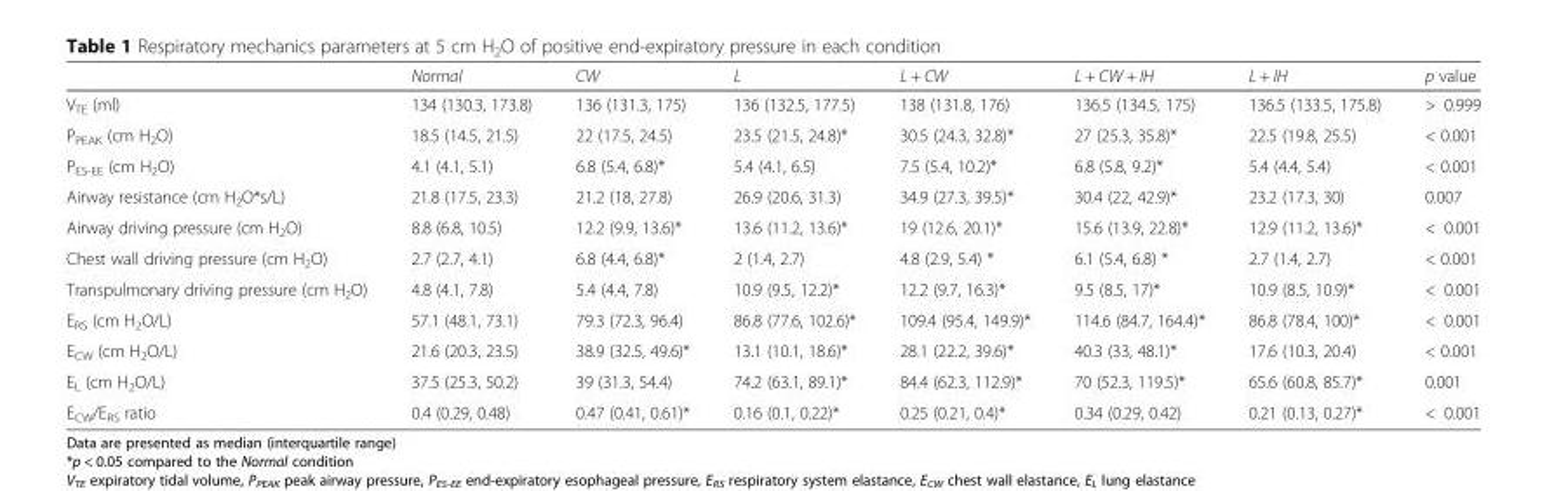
<table><thead><tr><td></td><td>Normal</td><td>CW</td><td>L</td><td>L + CW</td><td>L + CW + IH</td><td>L + IH</td><td>p value</td></tr></thead><tbody><tr><td>V<sub>TE</sub> (ml)</td><td>134 (130.3, 173.8)</td><td>136 (131.3, 175)</td><td>136 (132.5, 177.5)</td><td>138 (131.8, 176)</td><td>136.5 (134.5, 175)</td><td>136.5 (133.5, 175.8)</td><td>&gt; 0.999</td></tr><tr><td>P<sub>PEAK</sub> (cm H<sub>2</sub>O)</td><td>18.5 (14.5, 21.5)</td><td>22 (17.5, 24.5)</td><td>23.5 (21.5, 24.8)*</td><td>30.5 (24.3, 32.8)*</td><td>27 (25.3, 35.8)*</td><td>22.5 (19.8, 25.5)</td><td>&lt; 0.001</td></tr><tr><td>P<sub>ES-EE</sub> (cm H<sub>2</sub>O)</td><td>4.1 (4.1, 5.1)</td><td>6.8 (5.4, 6.8)*</td><td>5.4 (4.1, 6.5)</td><td>7.5 (5.4, 10.2)*</td><td>6.8 (5.8, 9.2)*</td><td>5.4 (4.4, 5.4)</td><td>&lt; 0.001</td></tr><tr><td>Airway resistance (cm H<sub>2</sub>O*s/L)</td><td>21.8 (17.5, 23.3)</td><td>21.2 (18, 27.8)</td><td>26.9 (20.6, 31.3)</td><td>34.9 (27.3, 39.5)*</td><td>30.4 (22, 42.9)*</td><td>23.2 (17.3, 30)</td><td>0.007</td></tr><tr><td>Airway driving pressure (cm H<sub>2</sub>O)</td><td>8.8 (6.8, 10.5)</td><td>12.2 (9.9, 13.6)*</td><td>13.6 (11.2, 13.6)*</td><td>19 (12.6, 20.1)*</td><td>15.6 (13.9, 22.8)*</td><td>12.9 (11.2, 13.6)*</td><td>&lt; 0.001</td></tr><tr><td>Chest wall driving pressure (cm H<sub>2</sub>O)</td><td>2.7 (2.7, 4.1)</td><td>6.8 (4.4, 6.8)*</td><td>2 (1.4, 2.7)</td><td>4.8 (2.9, 5.4) *</td><td>6.1 (5.4, 6.8) *</td><td>2.7 (1.4, 2.7)</td><td>&lt; 0.001</td></tr><tr><td>Transpulmonary driving pressure (cm H<sub>2</sub>O)</td><td>4.8 (4.1, 7.8)</td><td>5.4 (4.4, 7.8)</td><td>10.9 (9.5, 12.2)*</td><td>12.2 (9.7, 16.3)*</td><td>9.5 (8.5, 17)*</td><td>10.9 (8.5, 10.9)*</td><td>&lt; 0.001</td></tr><tr><td>E<sub>RS</sub> (cm H<sub>2</sub>O/L)</td><td>57.1 (48.1, 73.1)</td><td>79.3 (72.3, 96.4)</td><td>86.8 (77.6, 102.6)*</td><td>109.4 (95.4, 149.9)*</td><td>114.6 (84.7, 164.4)*</td><td>86.8 (78.4, 100)*</td><td>&lt; 0.001</td></tr><tr><td>E<sub>CW</sub> (cm H<sub>2</sub>O/L)</td><td>21.6 (20.3, 23.5)</td><td>38.9 (32.5, 49.6)*</td><td>13.1 (10.1, 18.6)*</td><td>28.1 (22.2, 39.6)*</td><td>40.3 (33, 48.1)*</td><td>17.6 (10.3, 20.4)</td><td>&lt; 0.001</td></tr><tr><td>E<sub>L</sub> (cm H<sub>2</sub>O/L)</td><td>37.5 (25.3, 50.2)</td><td>39 (31.3, 54.4)</td><td>74.2 (63.1, 89.1)*</td><td>84.4 (62.3, 112.9)*</td><td>70 (52.3, 119.5)*</td><td>65.6 (60.8, 85.7)*</td><td>0.001</td></tr><tr><td>E<sub>CW</sub>/E<sub>RS</sub> ratio</td><td>0.4 (0.29, 0.48)</td><td>0.47 (0.41, 0.61)*</td><td>0.16 (0.1, 0.22)*</td><td>0.25 (0.21, 0.4)*</td><td>0.34 (0.29, 0.42)</td><td>0.21 (0.13, 0.27)*</td><td>&lt; 0.001</td></tr></tbody></table>